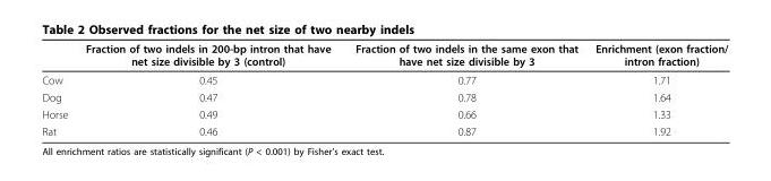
<table><thead><tr><td></td><td>Fraction of two indels in 200-bp intron that have net size divisible by 3 (control)</td><td>Fraction of two indels in the same exon that have net size divisible by 3</td><td>Enrichment (exon fraction/ intron fraction)</td></tr></thead><tbody><tr><td>Cow</td><td>0.45</td><td>0.77</td><td>1.71</td></tr><tr><td>Dog</td><td>0.47</td><td>0.78</td><td>1.64</td></tr><tr><td>Horse</td><td>0.49</td><td>0.66</td><td>1.33</td></tr><tr><td>Rat</td><td>0.46</td><td>0.87</td><td>1.92</td></tr></tbody></table>